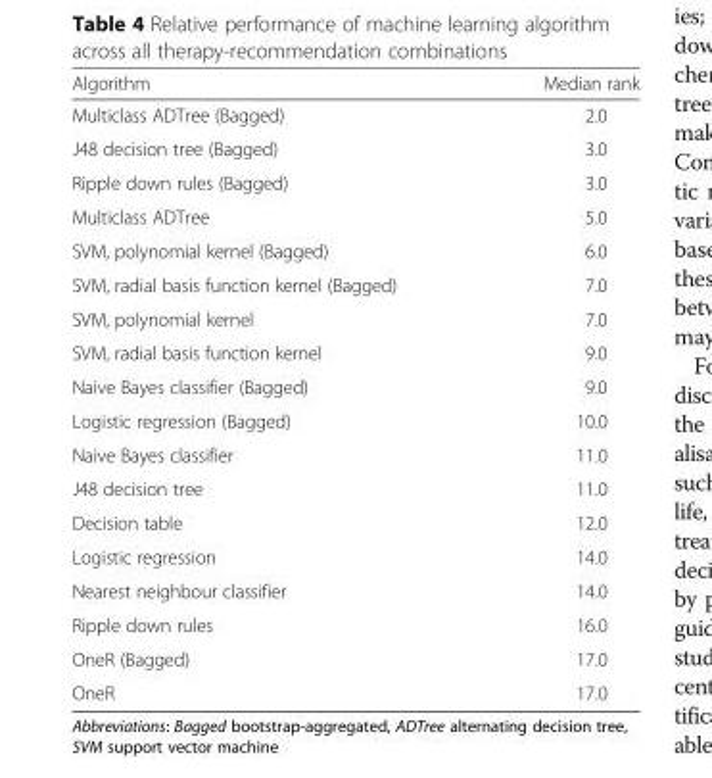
<table><thead><tr><td>Algorithm</td><td>Median rank</td></tr></thead><tbody><tr><td>Multiclass ADTree (Bagged)</td><td>2.0</td></tr><tr><td>J48 decision tree (Bagged)</td><td>3.0</td></tr><tr><td>Ripple down rules (Bagged)</td><td>3.0</td></tr><tr><td>Multiclass ADTree</td><td>5.0</td></tr><tr><td>SVM, polynomial kernel (Bagged)</td><td>6.0</td></tr><tr><td>SVM, radial basis function kernel (Bagged)</td><td>7.0</td></tr><tr><td>SVM, polynomial kernel</td><td>7.0</td></tr><tr><td>SVM, radial basis function kernel</td><td>9.0</td></tr><tr><td>Naive Bayes classifier (Bagged)</td><td>9.0</td></tr><tr><td>Logistic regression (Bagged)</td><td>10.0</td></tr><tr><td>Naive Bayes classifier</td><td>11.0</td></tr><tr><td>J48 decision tree</td><td>11.0</td></tr><tr><td>Decision table</td><td>12.0</td></tr><tr><td>Logistic regression</td><td>14.0</td></tr><tr><td>Nearest neighbour classifier</td><td>14.0</td></tr><tr><td>Ripple down rules</td><td>16.0</td></tr><tr><td>OneR (Bagged)</td><td>17.0</td></tr><tr><td>OneR</td><td>17.0</td></tr></tbody></table>